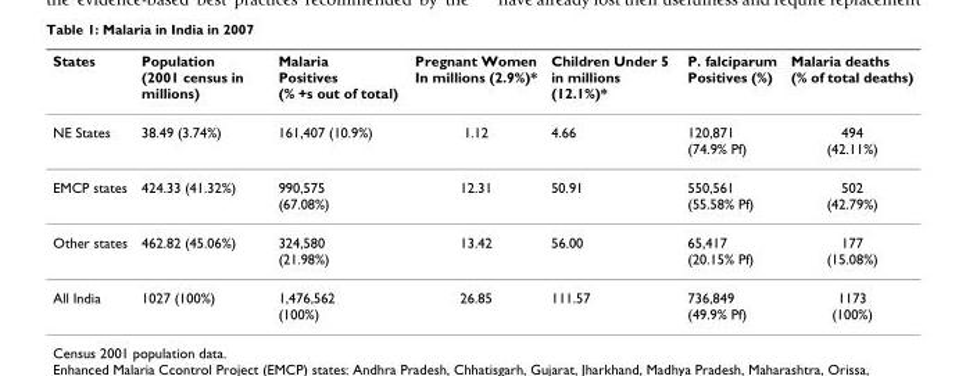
<table><thead><tr><td>States</td><td>Population (2001 census in millions)</td><td>Malaria Positives (% +s out of total)</td><td>Pregnant Women In millions (2.9%)*</td><td>Children Under 5 in millions (12.1%)*</td><td>P. falciparum Positives (%)</td><td>Malaria deaths (% of total deaths)</td></tr></thead><tbody><tr><td>NE States</td><td>38.49 (3.74%)</td><td>161,407 (10.9%)</td><td>1.12</td><td>4.66</td><td>120,871 (74.9% Pf)</td><td>494 (42.11%)</td></tr><tr><td>EMCP states</td><td>424.33 (41.32%)</td><td>990,575 (67.08%)</td><td>12.31</td><td>50.91</td><td>550,561 (55.58% Pf)</td><td>502 (42.79%)</td></tr><tr><td>Other states</td><td>462.82 (45.06%)</td><td>324,580 (21.98%)</td><td>13.42</td><td>56.00</td><td>65,417 (20.15% Pf)</td><td>177 (15.08%)</td></tr><tr><td>All India</td><td>1027 (100%)</td><td>1,476,562 (100%)</td><td>26.85</td><td>111.57</td><td>736,849 (49.9% Pf)</td><td>1173 (100%)</td></tr></tbody></table>